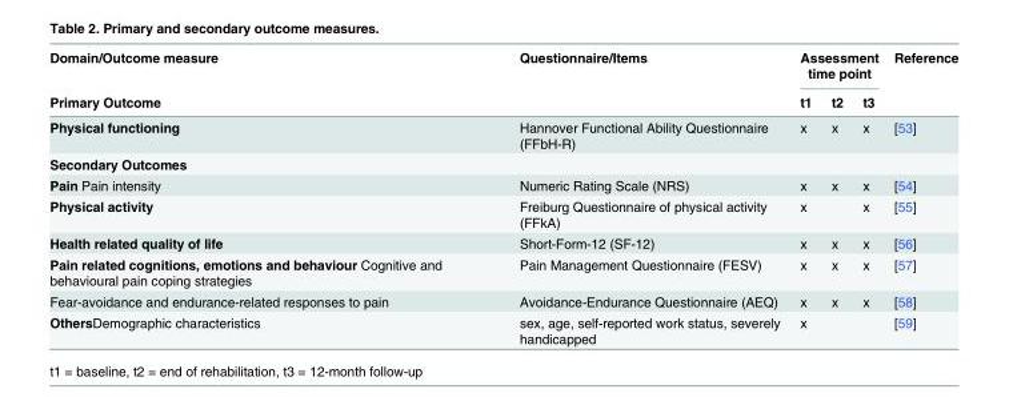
<table><thead><tr><td rowspan="2">Domain/Outcome measure Primary Outcome</td><td rowspan="2">Questionnaire/Items</td><td colspan="3">Assessment time point</td><td rowspan="2">Reference</td></tr><tr><td>t1</td><td>t2</td><td>t3</td></tr></thead><tbody><tr><td>Physical functioning</td><td>Hannover Functional Ability Questionnaire (FFbH-R)</td><td>x</td><td>x</td><td>x</td><td>[53]</td></tr><tr><td colspan="6">Secondary Outcomes</td></tr><tr><td>Pain Pain intensity</td><td>Numeric Rating Scale (NRS)</td><td>x</td><td>x</td><td>x</td><td>[54]</td></tr><tr><td>Physical activity</td><td>Freiburg Questionnaire of physical activity (FFkA)</td><td>x</td><td></td><td>x</td><td>[55]</td></tr><tr><td>Health related quality of life</td><td>Short-Form-12 (SF-12)</td><td>x</td><td>x</td><td>x</td><td>[56]</td></tr><tr><td>Pain related cognitions, emotions and behaviour Cognitive and behavioural pain coping strategies</td><td>Pain Management Questionnaire (FESV)</td><td>x</td><td>x</td><td>x</td><td>[57]</td></tr><tr><td>Fear-avoidance and endurance-related responses to pain</td><td>Avoidance-Endurance Questionnaire (AEQ)</td><td>x</td><td>x</td><td>x</td><td>[58]</td></tr><tr><td>OthersDemographic characteristics</td><td>sex, age, self-reported work status, severely handicapped</td><td>x</td><td></td><td></td><td>[59]</td></tr></tbody></table>